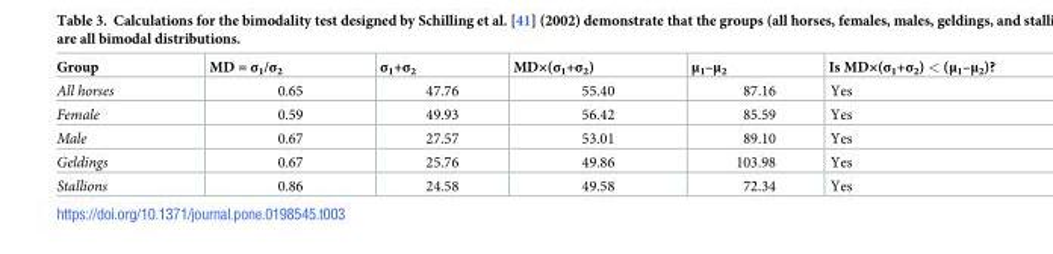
<table><thead><tr><td>Group</td><td>MD = σ<sub>1</sub>/σ<sub>2</sub></td><td>σ<sub>1</sub>+σ<sub>2</sub></td><td>MD×(σ<sub>1</sub>+σ<sub>2</sub>)</td><td>μ<sub>1</sub>–μ<sub>2</sub></td><td>Is MD×(σ<sub>1</sub>+σ<sub>2</sub>) &lt; (μ<sub>1</sub>–μ<sub>2</sub>)?</td></tr></thead><tbody><tr><td>All horses</td><td>0.65</td><td>47.76</td><td>55.40</td><td>87.16</td><td>Yes</td></tr><tr><td>Female</td><td>0.59</td><td>49.93</td><td>56.42</td><td>85.59</td><td>Yes</td></tr><tr><td>Male</td><td>0.67</td><td>27.57</td><td>53.01</td><td>89.10</td><td>Yes</td></tr><tr><td>Geldings</td><td>0.67</td><td>25.76</td><td>49.86</td><td>103.98</td><td>Yes</td></tr><tr><td>Stallions</td><td>0.86</td><td>24.58</td><td>49.58</td><td>72.34</td><td>Yes</td></tr></tbody></table>